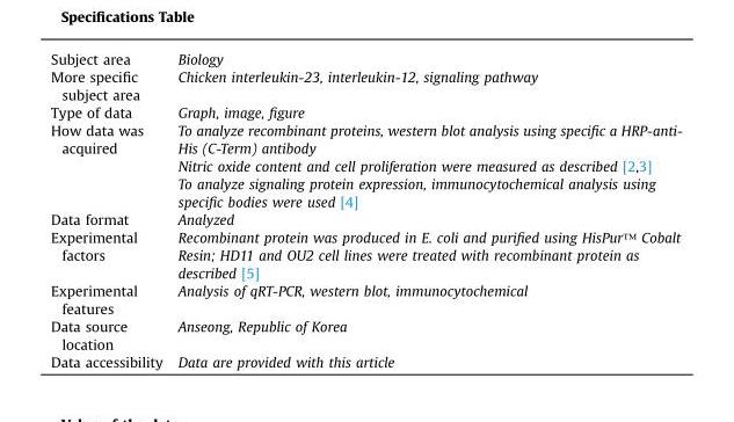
<table><tbody><tr><td>Subject area</td><td>Biology</td></tr><tr><td>More specific subject area</td><td>Chicken interleukin-23, interleukin-12, signaling pathway</td></tr><tr><td>Type of data</td><td>Graph, image, figure</td></tr><tr><td rowspan="3">How data was acquired</td><td>To analyze recombinant proteins, western blot analysis using specific a HRP-anti- His (C-Term) antibody</td></tr><tr><td>Nitric oxide content and cell proliferation were measured as described [2,3]</td></tr><tr><td>To analyze signaling protein expression, immunocytochemical analysis using specific bodies were used [4]</td></tr><tr><td>Data format</td><td>Analyzed</td></tr><tr><td>Experimental factors</td><td>Recombinant protein was produced in E. coli and purified using HisPur™ Cobalt Resin; HD11 and OU2 cell lines were treated with recombinant protein as described [5]</td></tr><tr><td>Experimental features</td><td>Analysis of qRT-PCR, western blot, immunocytochemical</td></tr><tr><td>Data source location</td><td>Anseong, Republic of Korea</td></tr><tr><td>Data accessibility</td><td>Data are provided with this article</td></tr></tbody></table>